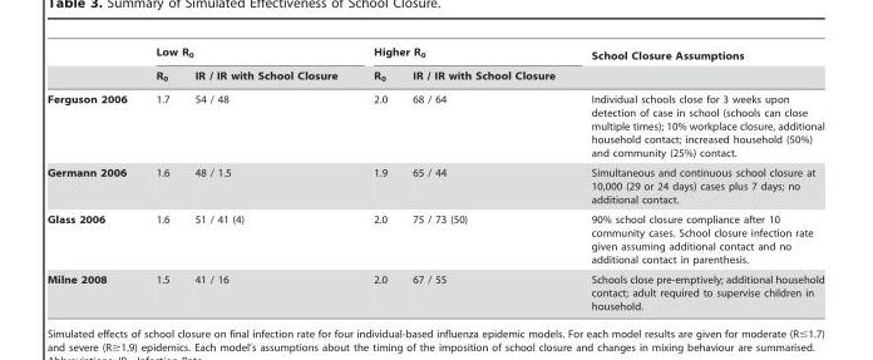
<table><thead><tr><td rowspan="2"></td><td colspan="2">Low R<sub>0</sub></td><td colspan="2">Higher R<sub>0</sub></td><td rowspan="2">School Closure Assumptions</td></tr><tr><td>R<sub>0</sub></td><td>IR / IR with School Closure</td><td>R<sub>0</sub></td><td>IR / IR with School Closure</td></tr></thead><tbody><tr><td>Ferguson 2006</td><td>1.7</td><td>54 / 48</td><td>2.0</td><td>68 / 64</td><td>Individual schools close for 3 weeks upon detection of case in school (schools can close multiple times); 10% workplace closure, additional household contact; increased household (50%) and community (25%) contact.</td></tr><tr><td>Germann 2006</td><td>1.6</td><td>48 / 1.5</td><td>1.9</td><td>65 / 44</td><td>Simultaneous and continuous school closure at 10,000 (29 or 24 days) cases plus 7 days; no additional contact.</td></tr><tr><td>Glass 2006</td><td>1.6</td><td>51 / 41 (4)</td><td>2.0</td><td>75 / 73 (50)</td><td>90% school closure compliance after 10 community cases. School closure infection rate given assuming additional contact and no additional contact in parenthesis.</td></tr><tr><td>Milne 2008</td><td>1.5</td><td>41 / 16</td><td>2.0</td><td>67 / 55</td><td>Schools close pre-emptively; additional household contact; adult required to supervise children in household.</td></tr></tbody></table>